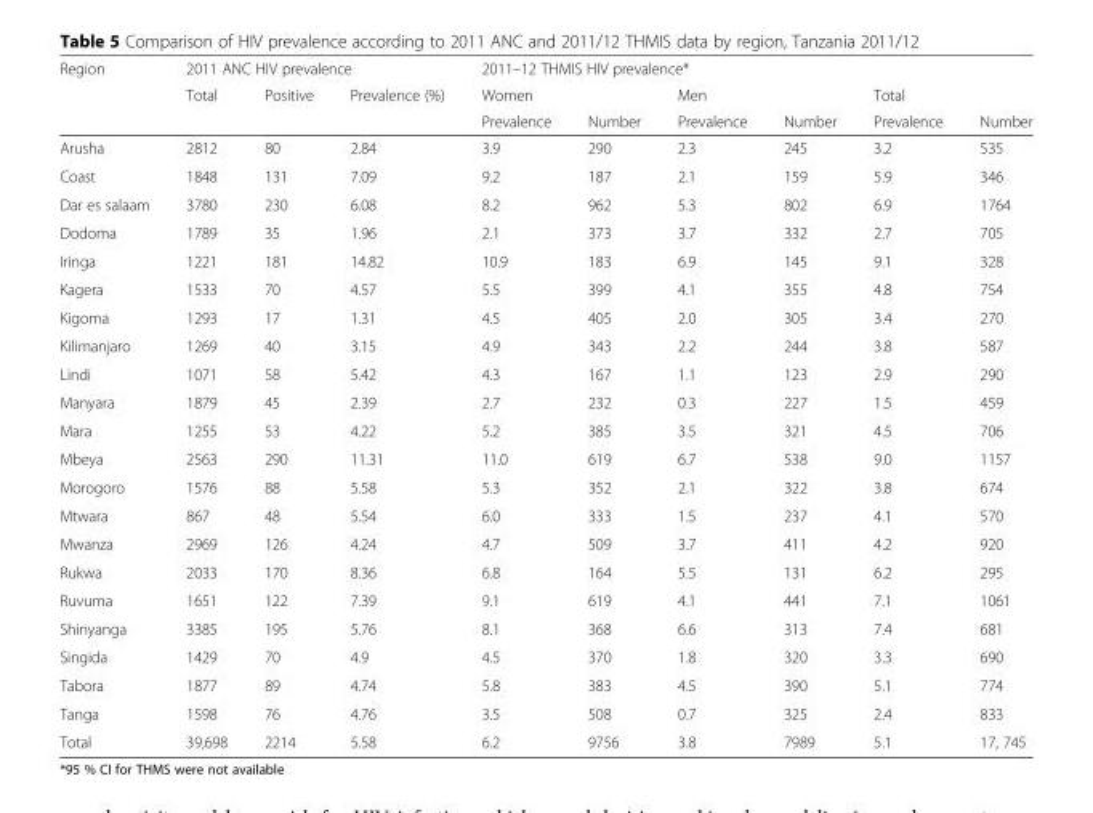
<table><thead><tr><td rowspan="3">Region</td><td colspan="3">2011 ANC HIV prevalence</td><td colspan="6">2011–12 THMIS HIV prevalence*</td></tr><tr><td rowspan="2">Total</td><td rowspan="2">Positive</td><td rowspan="2">Prevalence (%)</td><td colspan="2">Women</td><td colspan="2">Men</td><td colspan="2">Total</td></tr><tr><td>Prevalence</td><td>Number</td><td>Prevalence</td><td>Number</td><td>Prevalence</td><td>Number</td></tr></thead><tbody><tr><td>Arusha</td><td>2812</td><td>80</td><td>2.84</td><td>3.9</td><td>290</td><td>2.3</td><td>245</td><td>3.2</td><td>535</td></tr><tr><td>Coast</td><td>1848</td><td>131</td><td>7.09</td><td>9.2</td><td>187</td><td>2.1</td><td>159</td><td>5.9</td><td>346</td></tr><tr><td>Dar es salaam</td><td>3780</td><td>230</td><td>6.08</td><td>8.2</td><td>962</td><td>5.3</td><td>802</td><td>6.9</td><td>1764</td></tr><tr><td>Dodoma</td><td>1789</td><td>35</td><td>1.96</td><td>2.1</td><td>373</td><td>3.7</td><td>332</td><td>2.7</td><td>705</td></tr><tr><td>Iringa</td><td>1221</td><td>181</td><td>14.82</td><td>10.9</td><td>183</td><td>6.9</td><td>145</td><td>9.1</td><td>328</td></tr><tr><td>Kagera</td><td>1533</td><td>70</td><td>4.57</td><td>5.5</td><td>399</td><td>4.1</td><td>355</td><td>4.8</td><td>754</td></tr><tr><td>Kigoma</td><td>1293</td><td>17</td><td>1.31</td><td>4.5</td><td>405</td><td>2.0</td><td>305</td><td>3.4</td><td>270</td></tr><tr><td>Kilimanjaro</td><td>1269</td><td>40</td><td>3.15</td><td>4.9</td><td>343</td><td>2.2</td><td>244</td><td>3.8</td><td>587</td></tr><tr><td>Lindi</td><td>1071</td><td>58</td><td>5.42</td><td>4.3</td><td>167</td><td>1.1</td><td>123</td><td>2.9</td><td>290</td></tr><tr><td>Manyara</td><td>1879</td><td>45</td><td>2.39</td><td>2.7</td><td>232</td><td>0.3</td><td>227</td><td>1.5</td><td>459</td></tr><tr><td>Mara</td><td>1255</td><td>53</td><td>4.22</td><td>5.2</td><td>385</td><td>3.5</td><td>321</td><td>4.5</td><td>706</td></tr><tr><td>Mbeya</td><td>2563</td><td>290</td><td>11.31</td><td>11.0</td><td>619</td><td>6.7</td><td>538</td><td>9.0</td><td>1157</td></tr><tr><td>Morogoro</td><td>1576</td><td>88</td><td>5.58</td><td>5.3</td><td>352</td><td>2.1</td><td>322</td><td>3.8</td><td>674</td></tr><tr><td>Mtwara</td><td>867</td><td>48</td><td>5.54</td><td>6.0</td><td>333</td><td>1.5</td><td>237</td><td>4.1</td><td>570</td></tr><tr><td>Mwanza</td><td>2969</td><td>126</td><td>4.24</td><td>4.7</td><td>509</td><td>3.7</td><td>411</td><td>4.2</td><td>920</td></tr><tr><td>Rukwa</td><td>2033</td><td>170</td><td>8.36</td><td>6.8</td><td>164</td><td>5.5</td><td>131</td><td>6.2</td><td>295</td></tr><tr><td>Ruvuma</td><td>1651</td><td>122</td><td>7.39</td><td>9.1</td><td>619</td><td>4.1</td><td>441</td><td>7.1</td><td>1061</td></tr><tr><td>Shinyanga</td><td>3385</td><td>195</td><td>5.76</td><td>8.1</td><td>368</td><td>6.6</td><td>313</td><td>7.4</td><td>681</td></tr><tr><td>Singida</td><td>1429</td><td>70</td><td>4.9</td><td>4.5</td><td>370</td><td>1.8</td><td>320</td><td>3.3</td><td>690</td></tr><tr><td>Tabora</td><td>1877</td><td>89</td><td>4.74</td><td>5.8</td><td>383</td><td>4.5</td><td>390</td><td>5.1</td><td>774</td></tr><tr><td>Tanga</td><td>1598</td><td>76</td><td>4.76</td><td>3.5</td><td>508</td><td>0.7</td><td>325</td><td>2.4</td><td>833</td></tr><tr><td>Total</td><td>39,698</td><td>2214</td><td>5.58</td><td>6.2</td><td>9756</td><td>3.8</td><td>7989</td><td>5.1</td><td>17, 745</td></tr></tbody></table>